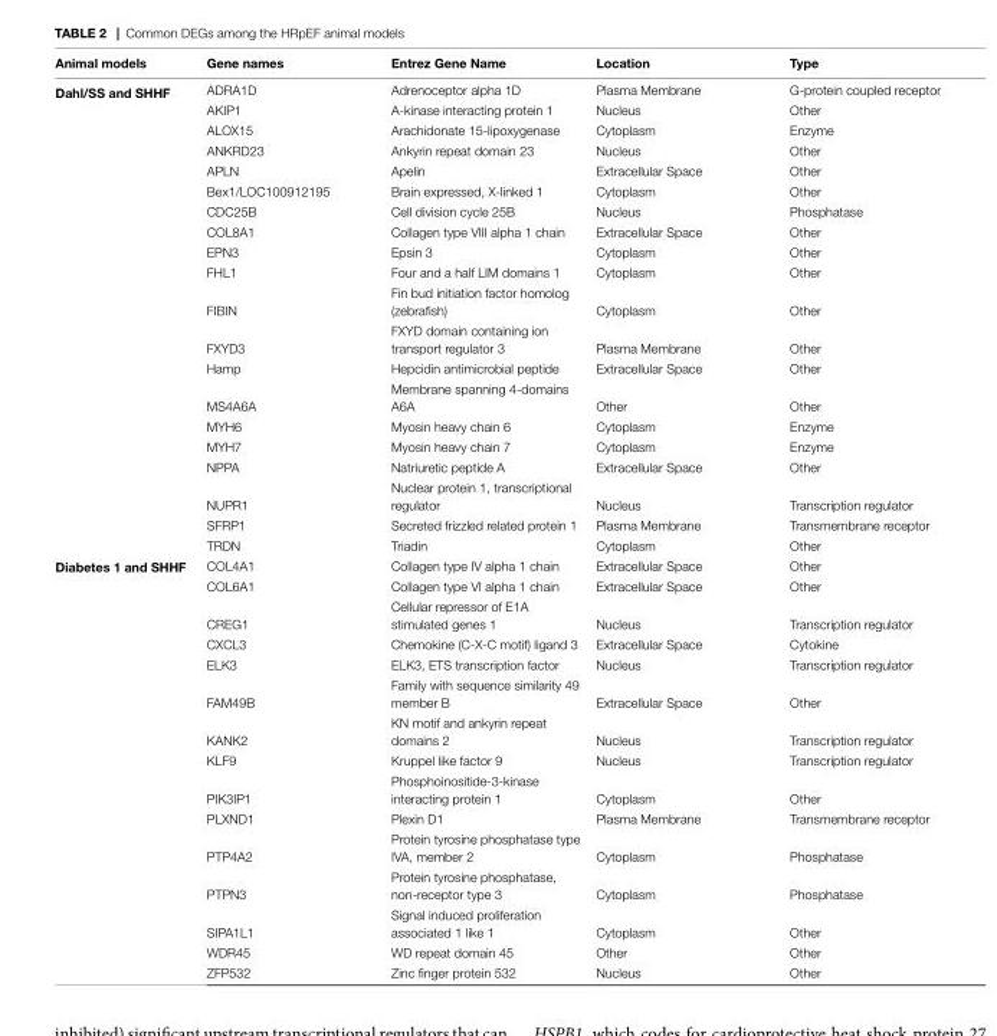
<table><thead><tr><td>animal models</td><td>gene names</td><td>entrez gene name</td><td>location</td><td>Type</td></tr></thead><tbody><tr><td rowspan="20">Dahl/ss and shhF</td><td>ADRA1D</td><td>Adrenoceptor alpha 1D</td><td>Plasma Membrane</td><td>G-protein coupled receptor</td></tr><tr><td>AKIP1</td><td>A-kinase interacting protein 1</td><td>Nucleus</td><td>Other</td></tr><tr><td>ALOX15</td><td>Arachidonate 15-lipoxygenase</td><td>Cytoplasm</td><td>Enzyme</td></tr><tr><td>ANKRD23</td><td>Ankyrin repeat domain 23</td><td>Nucleus</td><td>Other</td></tr><tr><td>APLN</td><td>Apelin</td><td>Extracellular Space</td><td>Other</td></tr><tr><td>Bex1/LOC100912195</td><td>Brain expressed, X-linked 1</td><td>Cytoplasm</td><td>Other</td></tr><tr><td>CDC25B</td><td>Cell division cycle 25B</td><td>Nucleus</td><td>Phosphatase</td></tr><tr><td>COL8A1</td><td>Collagen type VIII alpha 1 chain</td><td>Extracellular Space</td><td>Other</td></tr><tr><td>EPN3</td><td>Epsin 3</td><td>Cytoplasm</td><td>Other</td></tr><tr><td>FHL1</td><td>Four and a half LIM domains 1</td><td>Cytoplasm</td><td>Other</td></tr><tr><td>FIBIN</td><td>Fin bud initiation factor homolog (zebrafish)</td><td>Cytoplasm</td><td>Other</td></tr><tr><td>FXYD3</td><td>FXYD domain containing ion transport regulator 3</td><td>Plasma Membrane</td><td>Other</td></tr><tr><td>Hamp</td><td>Hepcidin antimicrobial peptide</td><td>Extracellular Space</td><td>Other</td></tr><tr><td>MS4A6A</td><td>Membrane spanning 4-domains A6A</td><td>Other</td><td>Other</td></tr><tr><td>MYH6</td><td>Myosin heavy chain 6</td><td>Cytoplasm</td><td>Enzyme</td></tr><tr><td>MYH7</td><td>Myosin heavy chain 7</td><td>Cytoplasm</td><td>Enzyme</td></tr><tr><td>NPPA</td><td>Natriuretic peptide A</td><td>Extracellular Space</td><td>Other</td></tr><tr><td>NUPR1</td><td>Nuclear protein 1, transcriptional regulator</td><td>Nucleus</td><td>Transcription regulator</td></tr><tr><td>SFRP1</td><td>Secreted frizzled related protein 1</td><td>Plasma Membrane</td><td>Transmembrane receptor</td></tr><tr><td>TRDN</td><td>Triadin</td><td>Cytoplasm</td><td>Other</td></tr><tr><td rowspan="15">Diabetes 1 and shhF</td><td>COL4A1</td><td>Collagen type IV alpha 1 chain</td><td>Extracellular Space</td><td>Other</td></tr><tr><td>COL6A1</td><td>Collagen type VI alpha 1 chain</td><td>Extracellular Space</td><td>Other</td></tr><tr><td>CREG1</td><td>Cellular repressor of E1A stimulated genes 1</td><td>Nucleus</td><td>Transcription regulator</td></tr><tr><td>CXCL3</td><td>Chemokine (C-X-C motif) ligand 3</td><td>Extracellular Space</td><td>Cytokine</td></tr><tr><td>ELK3</td><td>ELK3, ETS transcription factor</td><td>Nucleus</td><td>Transcription regulator</td></tr><tr><td>FAM49B</td><td>Family with sequence similarity 49 member B</td><td>Extracellular Space</td><td>Other</td></tr><tr><td>KANK2</td><td>KN motif and ankyrin repeat domains 2</td><td>Nucleus</td><td>Transcription regulator</td></tr><tr><td>KLF9</td><td>Kruppel like factor 9</td><td>Nucleus</td><td>Transcription regulator</td></tr><tr><td>PIK3IP1</td><td>Phosphoinositide-3-kinase interacting protein 1</td><td>Cytoplasm</td><td>Other</td></tr><tr><td>PLXND1</td><td>Plexin D1</td><td>Plasma Membrane</td><td>Transmembrane receptor</td></tr><tr><td>PTP4A2</td><td>Protein tyrosine phosphatase type IVA, member 2</td><td>Cytoplasm</td><td>Phosphatase</td></tr><tr><td>PTPN3</td><td>Protein tyrosine phosphatase, non-receptor type 3</td><td>Cytoplasm</td><td>Phosphatase</td></tr><tr><td>SIPA1L1</td><td>Signal induced proliferation associated 1 like 1</td><td>Cytoplasm</td><td>Other</td></tr><tr><td>WDR45</td><td>WD repeat domain 45</td><td>Other</td><td>Other</td></tr><tr><td>ZFP532</td><td>Zinc finger protein 532</td><td>Nucleus</td><td>Other</td></tr></tbody></table>